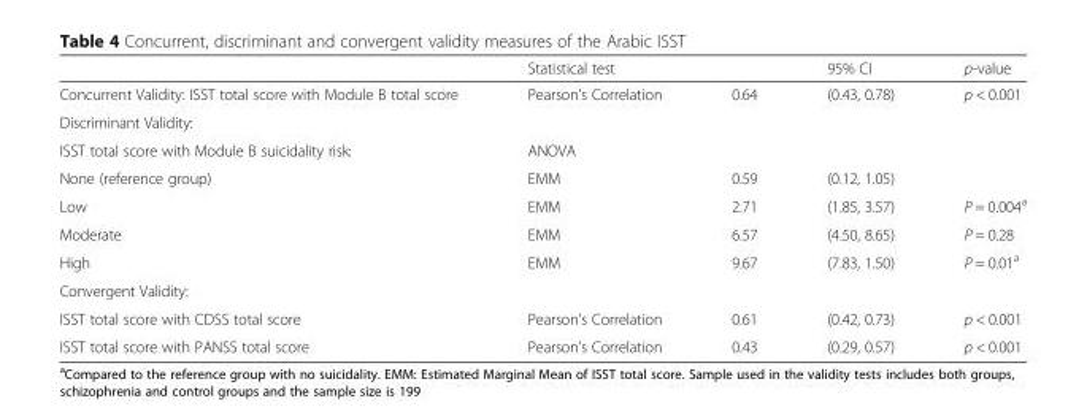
<table><thead><tr><td></td><td>Statistical test</td><td></td><td>95% CI</td><td>p-value</td></tr></thead><tbody><tr><td>Concurrent Validity: ISST total score with Module B total score</td><td>Pearson’s Correlation</td><td>0.64</td><td>(0.43, 0.78)</td><td>p &lt; 0.001</td></tr><tr><td colspan="5">Discriminant Validity:</td></tr><tr><td>ISST total score with Module B suicidality risk:</td><td>ANOVA</td><td></td><td></td><td></td></tr><tr><td>None (reference group)</td><td>EMM</td><td>0.59</td><td>(0.12, 1.05)</td><td></td></tr><tr><td>Low</td><td>EMM</td><td>2.71</td><td>(1.85, 3.57)</td><td>P = 0.004<sup>a</sup></td></tr><tr><td>Moderate</td><td>EMM</td><td>6.57</td><td>(4.50, 8.65)</td><td>P = 0.28</td></tr><tr><td>High</td><td>EMM</td><td>9.67</td><td>(7.83, 1.50)</td><td>P = 0.01<sup>a</sup></td></tr><tr><td colspan="5">Convergent Validity:</td></tr><tr><td>ISST total score with CDSS total score</td><td>Pearson’s Correlation</td><td>0.61</td><td>(0.42, 0.73)</td><td>p &lt; 0.001</td></tr><tr><td>ISST total score with PANSS total score</td><td>Pearson’s Correlation</td><td>0.43</td><td>(0.29, 0.57)</td><td>p &lt; 0.001</td></tr></tbody></table>